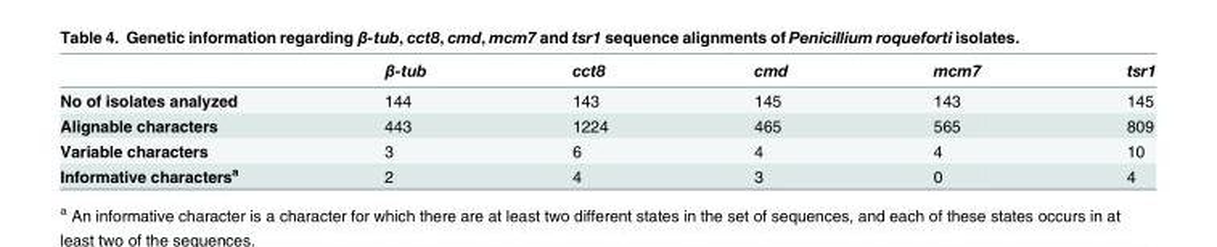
<table><thead><tr><td></td><td>β-tub</td><td>cct8</td><td>cmd</td><td>mcm7</td><td>tsr1</td></tr></thead><tbody><tr><td>No of isolates analyzed</td><td>144</td><td>143</td><td>145</td><td>143</td><td>145</td></tr><tr><td>Alignable characters</td><td>443</td><td>1224</td><td>465</td><td>565</td><td>809</td></tr><tr><td>Variable characters</td><td>3</td><td>6</td><td>4</td><td>4</td><td>10</td></tr><tr><td>Informative characters<sup>a</sup></td><td>2</td><td>4</td><td>3</td><td>0</td><td>4</td></tr></tbody></table>